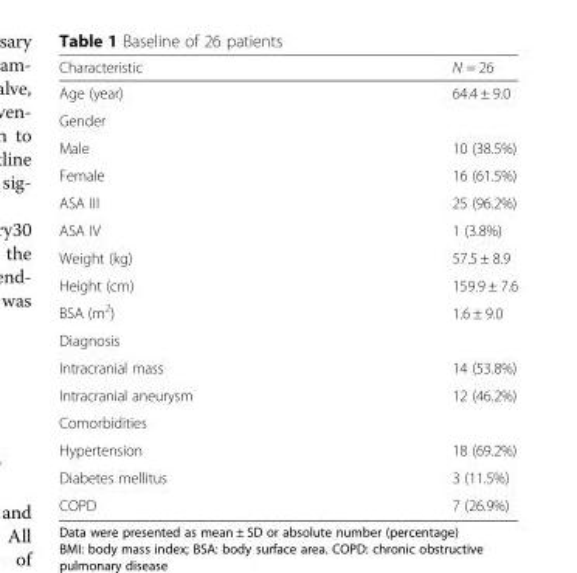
<table><thead><tr><td>Characteristic</td><td>N = 26</td></tr></thead><tbody><tr><td>Age (year)</td><td>64.4 ± 9.0</td></tr><tr><td colspan="2">Gender</td></tr><tr><td>Male</td><td>10 (38.5%)</td></tr><tr><td>Female</td><td>16 (61.5%)</td></tr><tr><td>ASA III</td><td>25 (96.2%)</td></tr><tr><td>ASA IV</td><td>1 (3.8%)</td></tr><tr><td>Weight (kg)</td><td>57.5 ± 8.9</td></tr><tr><td>Height (cm)</td><td>159.9 ± 7.6</td></tr><tr><td>BSA (m<sup>2</sup>)</td><td>1.6 ± 9.0</td></tr><tr><td colspan="2">Diagnosis</td></tr><tr><td>Intracranial mass</td><td>14 (53.8%)</td></tr><tr><td>Intracranial aneurysm</td><td>12 (46.2%)</td></tr><tr><td colspan="2">Comorbidities</td></tr><tr><td>Hypertension</td><td>18 (69.2%)</td></tr><tr><td>Diabetes mellitus</td><td>3 (11.5%)</td></tr><tr><td>COPD</td><td>7 (26.9%)</td></tr></tbody></table>